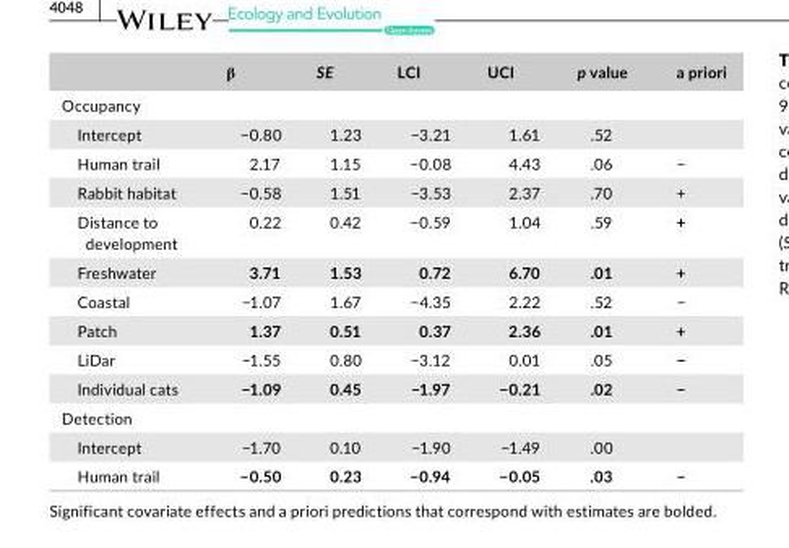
<table><thead><tr><td></td><td>β</td><td>SE</td><td>LCI</td><td>UCI</td><td>p value</td><td>a priori</td></tr></thead><tbody><tr><td colspan="7">Occupancy</td></tr><tr><td>Intercept</td><td>−0.80</td><td>1.23</td><td>−3.21</td><td>1.61</td><td>.52</td><td></td></tr><tr><td>Human trail</td><td>2.17</td><td>1.15</td><td>−0.08</td><td>4.43</td><td>.06</td><td>−</td></tr><tr><td>Rabbit habitat</td><td>−0.58</td><td>1.51</td><td>−3.53</td><td>2.37</td><td>.70</td><td>+</td></tr><tr><td>Distance to development</td><td>0.22</td><td>0.42</td><td>−0.59</td><td>1.04</td><td>.59</td><td>+</td></tr><tr><td>Freshwater</td><td>3.71</td><td>1.53</td><td>0.72</td><td>6.70</td><td>.01</td><td>+</td></tr><tr><td>Coastal</td><td>−1.07</td><td>1.67</td><td>−4.35</td><td>2.22</td><td>.52</td><td>−</td></tr><tr><td>Patch</td><td>1.37</td><td>0.51</td><td>0.37</td><td>2.36</td><td>.01</td><td>+</td></tr><tr><td>LiDar</td><td>−1.55</td><td>0.80</td><td>−3.12</td><td>0.01</td><td>.05</td><td>−</td></tr><tr><td>Individual cats</td><td>−1.09</td><td>0.45</td><td>−1.97</td><td>−0.21</td><td>.02</td><td>−</td></tr><tr><td colspan="7">Detection</td></tr><tr><td>Intercept</td><td>−1.70</td><td>0.10</td><td>−1.90</td><td>−1.49</td><td>.00</td><td></td></tr><tr><td>Human trail</td><td>−0.50</td><td>0.23</td><td>−0.94</td><td>−0.05</td><td>.03</td><td>−</td></tr></tbody></table>